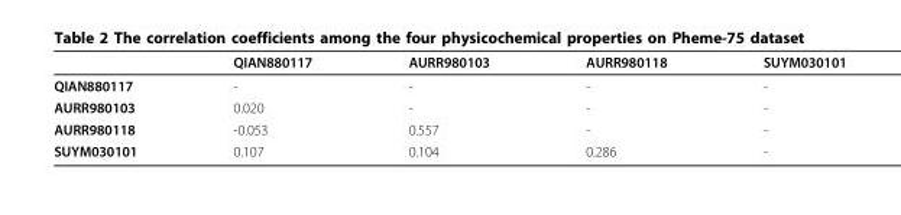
<table><thead><tr><td></td><td>QIAN880117</td><td>AURR980103</td><td>AURR980118</td><td>SUYM030101</td></tr></thead><tbody><tr><td>QIAN880117</td><td>-</td><td>-</td><td>-</td><td>-</td></tr><tr><td>AURR980103</td><td>0.020</td><td>-</td><td>-</td><td>-</td></tr><tr><td>AURR980118</td><td>-0.053</td><td>0.557</td><td>-</td><td>-</td></tr><tr><td>SUYM030101</td><td>0.107</td><td>0.104</td><td>0.286</td><td>-</td></tr></tbody></table>